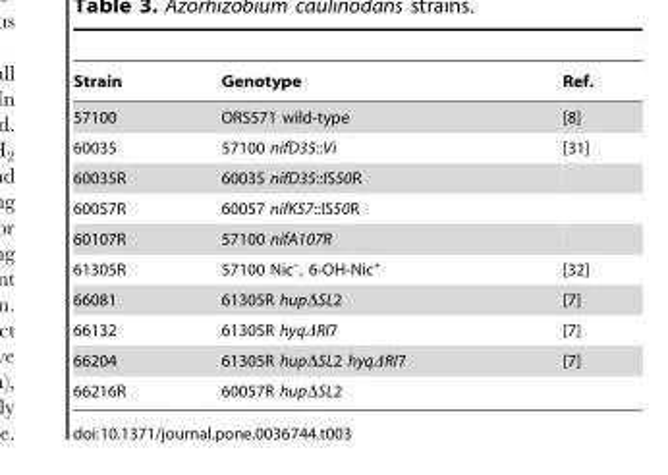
<table><thead><tr><td>Strain</td><td>Genotype</td><td>Ref.</td></tr></thead><tbody><tr><td>57100</td><td>ORS571 wild-type</td><td>[8]</td></tr><tr><td>60035</td><td>57100 nifD35::Vi</td><td>[31]</td></tr><tr><td>60035R</td><td>60035 nifD35::IS50R</td><td></td></tr><tr><td>60057R</td><td>60057 nifK57::IS50R</td><td></td></tr><tr><td>60107R</td><td>57100 nifA107R</td><td></td></tr><tr><td>61305R</td><td>57100 Nic<sup>–</sup>, 6-OH-Nic<sup>+</sup></td><td>[32]</td></tr><tr><td>66081</td><td>61305R hupΔSL2</td><td>[7]</td></tr><tr><td>66132</td><td>61305R hyqΔRI7</td><td>[7]</td></tr><tr><td>66204</td><td>61305R hupΔSL2 hyqΔRI7</td><td>[7]</td></tr><tr><td>66216R</td><td>60057R hupΔSL2</td><td></td></tr></tbody></table>